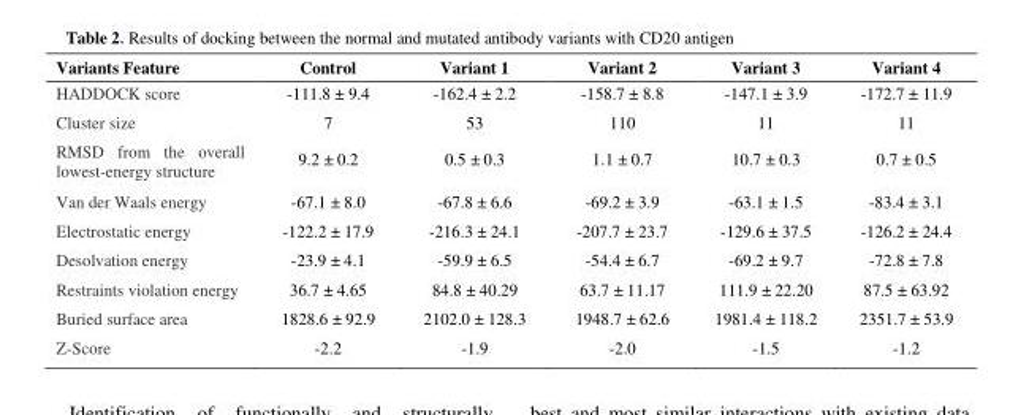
<table><thead><tr><td>Variants Feature</td><td>Control</td><td>Variant 1</td><td>Variant 2</td><td>Variant 3</td><td>Variant 4</td></tr></thead><tbody><tr><td>HADDOCK score</td><td>-111.8 ± 9.4</td><td>-162.4 ± 2.2</td><td>-158.7 ± 8.8</td><td>-147.1 ± 3.9</td><td>-172.7 ± 11.9</td></tr><tr><td>Cluster size</td><td>7</td><td>53</td><td>110</td><td>11</td><td>11</td></tr><tr><td>RMSD from the overall lowest-energy structure</td><td>9.2 ± 0.2</td><td>0.5 ± 0.3</td><td>1.1 ± 0.7</td><td>10.7 ± 0.3</td><td>0.7 ± 0.5</td></tr><tr><td>Van der Waals energy</td><td>-67.1 ± 8.0</td><td>-67.8 ± 6.6</td><td>-69.2 ± 3.9</td><td>-63.1 ± 1.5</td><td>-83.4 ± 3.1</td></tr><tr><td>Electrostatic energy</td><td>-122.2 ± 17.9</td><td>-216.3 ± 24.1</td><td>-207.7 ± 23.7</td><td>-129.6 ± 37.5</td><td>-126.2 ± 24.4</td></tr><tr><td>Desolvation energy</td><td>-23.9 ± 4.1</td><td>-59.9 ± 6.5</td><td>-54.4 ± 6.7</td><td>-69.2 ± 9.7</td><td>-72.8 ± 7.8</td></tr><tr><td>Restraints violation energy</td><td>36.7 ± 4.65</td><td>84.8 ± 40.29</td><td>63.7 ± 11.17</td><td>111.9 ± 22.20</td><td>87.5 ± 63.92</td></tr><tr><td>Buried surface area</td><td>1828.6 ± 92.9</td><td>2102.0 ± 128.3</td><td>1948.7 ± 62.6</td><td>1981.4 ± 118.2</td><td>2351.7 ± 53.9</td></tr><tr><td>Z-Score</td><td>-2.2</td><td>-1.9</td><td>-2.0</td><td>-1.5</td><td>-1.2</td></tr></tbody></table>